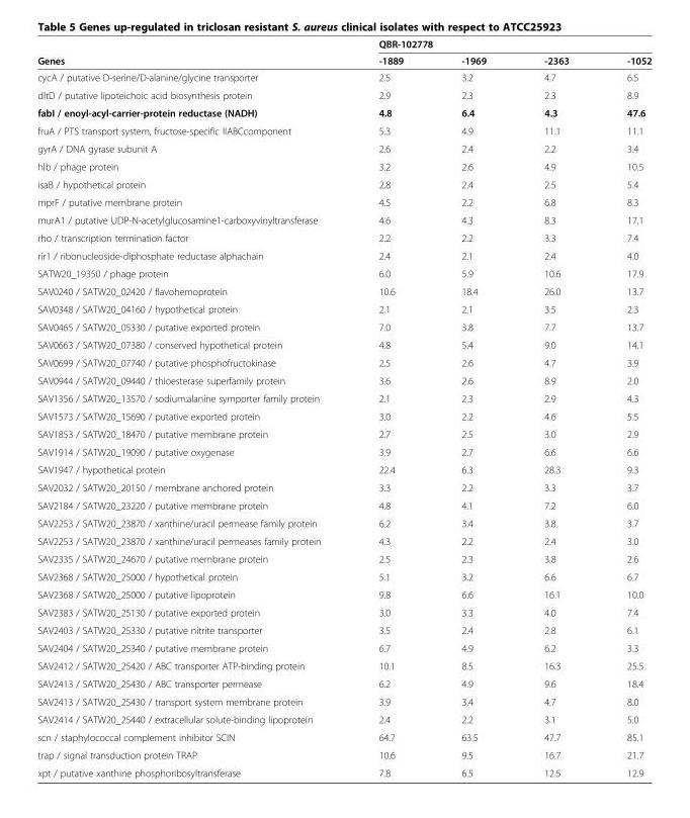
<table><thead><tr><td rowspan="2">Genes</td><td colspan="4">QBR-102778</td></tr><tr><td>-1889</td><td>-1969</td><td>-2363</td><td>-1052</td></tr></thead><tbody><tr><td>cycA / putative D-serine/D-alanine/glycine transporter</td><td>2.5</td><td>3.2</td><td>4.7</td><td>6.5</td></tr><tr><td>dltD / putative lipoteichoic acid biosynthesis protein</td><td>2.9</td><td>2.3</td><td>2.3</td><td>8.9</td></tr><tr><td>fabI / enoyl-acyl-carrier-protein reductase (NADH)</td><td>4.8</td><td>6.4</td><td>4.3</td><td>47.6</td></tr><tr><td>fruA / PTS transport system, fructose-specific IIABCcomponent</td><td>5.3</td><td>4.9</td><td>11.1</td><td>11.1</td></tr><tr><td>gyrA / DNA gyrase subunit A</td><td>2.6</td><td>2.4</td><td>2.2</td><td>3.4</td></tr><tr><td>hlb / phage protein</td><td>3.2</td><td>2.6</td><td>4.9</td><td>10.5</td></tr><tr><td>isaB / hypothetical protein</td><td>2.8</td><td>2.4</td><td>2.5</td><td>5.4</td></tr><tr><td>mprF / putative membrane protein</td><td>4.5</td><td>2.2</td><td>6.8</td><td>8.3</td></tr><tr><td>murA1 / putative UDP-N-acetylglucosamine1-carboxyvinyltransferase</td><td>4.6</td><td>4.3</td><td>8.3</td><td>17.1</td></tr><tr><td>rho / transcription termination factor</td><td>2.2</td><td>2.2</td><td>3.3</td><td>7.4</td></tr><tr><td>rir1 / ribonucleoside-diphosphate reductase alphachain</td><td>2.4</td><td>2.1</td><td>2.4</td><td>4.0</td></tr><tr><td>SATW20_19350 / phage protein</td><td>6.0</td><td>5.9</td><td>10.6</td><td>17.9</td></tr><tr><td>SAV0240 / SATW20_02420 / flavohemoprotein</td><td>10.6</td><td>18.4</td><td>26.0</td><td>13.7</td></tr><tr><td>SAV0348 / SATW20_04160 / hypothetical protein</td><td>2.1</td><td>2.1</td><td>3.5</td><td>2.3</td></tr><tr><td>SAV0465 / SATW20_05330 / putative exported protein</td><td>7.0</td><td>3.8</td><td>7.7</td><td>13.7</td></tr><tr><td>SAV0663 / SATW20_07380 / conserved hypothetical protein</td><td>4.8</td><td>5.4</td><td>9.0</td><td>14.1</td></tr><tr><td>SAV0699 / SATW20_07740 / putative phosphofructokinase</td><td>2.5</td><td>2.6</td><td>4.7</td><td>3.9</td></tr><tr><td>SAV0944 / SATW20_09440 / thioesterase superfamily protein</td><td>3.6</td><td>2.6</td><td>8.9</td><td>2.0</td></tr><tr><td>SAV1356 / SATW20_13570 / sodium:alanine symporter family protein</td><td>2.1</td><td>2.3</td><td>2.9</td><td>4.3</td></tr><tr><td>SAV1573 / SATW20_15690 / putative exported protein</td><td>3.0</td><td>2.2</td><td>4.6</td><td>5.5</td></tr><tr><td>SAV1853 / SATW20_18470 / putative membrane protein</td><td>2.7</td><td>2.5</td><td>3.0</td><td>2.9</td></tr><tr><td>SAV1914 / SATW20_19090 / putative oxygenase</td><td>3.9</td><td>2.7</td><td>6.6</td><td>6.6</td></tr><tr><td>SAV1947 / hypothetical protein</td><td>22.4</td><td>6.3</td><td>28.3</td><td>9.3</td></tr><tr><td>SAV2032 / SATW20_20150 / membrane anchored protein</td><td>3.3</td><td>2.2</td><td>3.3</td><td>3.7</td></tr><tr><td>SAV2184 / SATW20_23220 / putative membrane protein</td><td>4.8</td><td>4.1</td><td>7.2</td><td>6.0</td></tr><tr><td>SAV2253 / SATW20_23870 / xanthine/uracil permease family protein</td><td>6.2</td><td>3.4</td><td>3.8</td><td>3.7</td></tr><tr><td>SAV2253 / SATW20_23870 / xanthine/uracil permeases family protein</td><td>4.3</td><td>2.2</td><td>2.4</td><td>3.0</td></tr><tr><td>SAV2335 / SATW20_24670 / putative membrane protein</td><td>2.5</td><td>2.3</td><td>3.8</td><td>2.6</td></tr><tr><td>SAV2368 / SATW20_25000 / hypothetical protein</td><td>5.1</td><td>3.2</td><td>6.6</td><td>6.7</td></tr><tr><td>SAV2368 / SATW20_25000 / putative lipoprotein</td><td>9.8</td><td>6.6</td><td>16.1</td><td>10.0</td></tr><tr><td>SAV2383 / SATW20_25130 / putative exported protein</td><td>3.0</td><td>3.3</td><td>4.0</td><td>7.4</td></tr><tr><td>SAV2403 / SATW20_25330 / putative nitrite transporter</td><td>3.5</td><td>2.4</td><td>2.8</td><td>6.1</td></tr><tr><td>SAV2404 / SATW20_25340 / putative membrane protein</td><td>6.7</td><td>4.9</td><td>6.2</td><td>3.3</td></tr><tr><td>SAV2412 / SATW20_25420 / ABC transporter ATP-binding protein</td><td>10.1</td><td>8.5</td><td>16.3</td><td>25.5</td></tr><tr><td>SAV2413 / SATW20_25430 / ABC transporter permease</td><td>6.2</td><td>4.9</td><td>9.6</td><td>18.4</td></tr><tr><td>SAV2413 / SATW20_25430 / transport system membrane protein</td><td>3.9</td><td>3.4</td><td>4.7</td><td>8.0</td></tr><tr><td>SAV2414 / SATW20_25440 / extracellular solute-binding lipoprotein</td><td>2.4</td><td>2.2</td><td>3.1</td><td>5.0</td></tr><tr><td>scn / staphylococcal complement inhibitor SCIN</td><td>64.7</td><td>63.5</td><td>47.7</td><td>85.1</td></tr><tr><td>trap / signal transduction protein TRAP</td><td>10.6</td><td>9.5</td><td>16.7</td><td>21.7</td></tr><tr><td>xpt / putative xanthine phosphoribosyltransferase</td><td>7.8</td><td>6.5</td><td>12.5</td><td>12.9</td></tr></tbody></table>